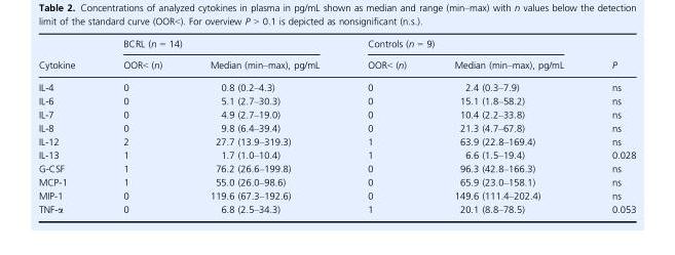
<table><thead><tr><td rowspan="2">Cytokine</td><td colspan="2">BCRL (n = 14)</td><td colspan="2">Controls (n = 9)</td><td rowspan="2">P</td></tr><tr><td>OOR&lt; (n)</td><td>Median (min–max), pg/mL</td><td>OOR&lt; (n)</td><td>Median (min–max), pg/mL</td></tr></thead><tbody><tr><td>IL-4</td><td>0</td><td>0.8 (0.2–4.3)</td><td>0</td><td>2.4 (0.3–7.9)</td><td>ns</td></tr><tr><td>IL-6</td><td>0</td><td>5.1 (2.7–30.3)</td><td>0</td><td>15.1 (1.8–58.2)</td><td>ns</td></tr><tr><td>IL-7</td><td>0</td><td>4.9 (2.7–19.0)</td><td>0</td><td>10.4 (2.2–33.8)</td><td>ns</td></tr><tr><td>IL-8</td><td>0</td><td>9.8 (6.4–39.4)</td><td>0</td><td>21.3 (4.7–67.8)</td><td>ns</td></tr><tr><td>IL-12</td><td>2</td><td>27.7 (13.9–319.3)</td><td>1</td><td>63.9 (22.8–169.4)</td><td>ns</td></tr><tr><td>IL-13</td><td>1</td><td>1.7 (1.0–10.4)</td><td>1</td><td>6.6 (1.5–19.4)</td><td>0.028</td></tr><tr><td>G-CSF</td><td>1</td><td>76.2 (26.6–199.8)</td><td>0</td><td>96.3 (42.8–166.3)</td><td>ns</td></tr><tr><td>MCP-1</td><td>1</td><td>55.0 (26.0–98.6)</td><td>0</td><td>65.9 (23.0–158.1)</td><td>ns</td></tr><tr><td>MIP-1</td><td>0</td><td>119.6 (67.3–192.6)</td><td>0</td><td>149.6 (111.4–202.4)</td><td>ns</td></tr><tr><td>TNF-α</td><td>0</td><td>6.8 (2.5–34.3)</td><td>1</td><td>20.1 (8.8–78.5)</td><td>0.053</td></tr></tbody></table>